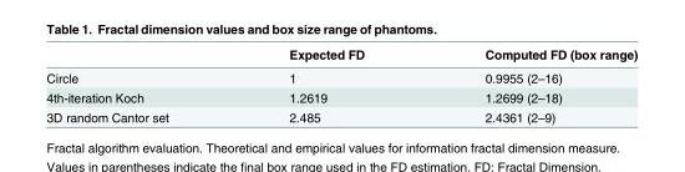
<table><thead><tr><td></td><td>Expected FD</td><td>Computed FD (box range)</td></tr></thead><tbody><tr><td>Circle</td><td>1</td><td>0.9955 (2–16)</td></tr><tr><td>4th-iteration Koch</td><td>1.2619</td><td>1.2699 (2–18)</td></tr><tr><td>3D random Cantor set</td><td>2.485</td><td>2.4361 (2–9)</td></tr></tbody></table>